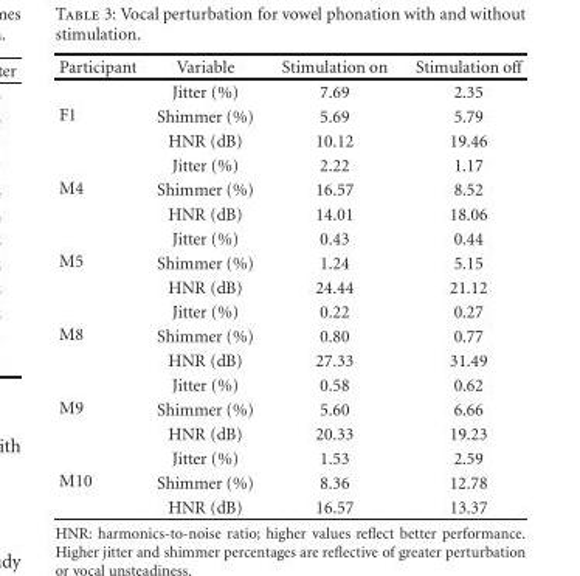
<table><thead><tr><td>Participant</td><td>Variable</td><td>Stimulation on</td><td>Stimulation</td></tr></thead><tbody><tr><td rowspan="3">F1</td><td>Jitter (%)</td><td>7.69</td><td>2.35</td></tr><tr><td>Shimmer (%)</td><td>5.69</td><td>5.79</td></tr><tr><td>HNR (dB)</td><td>10.12</td><td>19.46</td></tr><tr><td rowspan="3">M4</td><td>Jitter (%)</td><td>2.22</td><td>1.17</td></tr><tr><td>Shimmer (%)</td><td>16.57</td><td>8.52</td></tr><tr><td>HNR (dB)</td><td>14.01</td><td>18.06</td></tr><tr><td rowspan="3">M5</td><td>Jitter (%)</td><td>0.43</td><td>0.44</td></tr><tr><td>Shimmer (%)</td><td>1.24</td><td>5.15</td></tr><tr><td>HNR (dB)</td><td>24.44</td><td>21.12</td></tr><tr><td rowspan="3">M8</td><td>Jitter (%)</td><td>0.22</td><td>0.27</td></tr><tr><td>Shimmer (%)</td><td>0.80</td><td>0.77</td></tr><tr><td>HNR (dB)</td><td>27.33</td><td>31.49</td></tr><tr><td rowspan="3">M9</td><td>Jitter (%)</td><td>0.58</td><td>0.62</td></tr><tr><td>Shimmer (%)</td><td>5.60</td><td>6.66</td></tr><tr><td>HNR (dB)</td><td>20.33</td><td>19.23</td></tr><tr><td rowspan="3">M10</td><td>Jitter (%)</td><td>1.53</td><td>2.59</td></tr><tr><td>Shimmer (%)</td><td>8.36</td><td>12.78</td></tr><tr><td>HNR (dB)</td><td>16.57</td><td>13.37</td></tr></tbody></table>